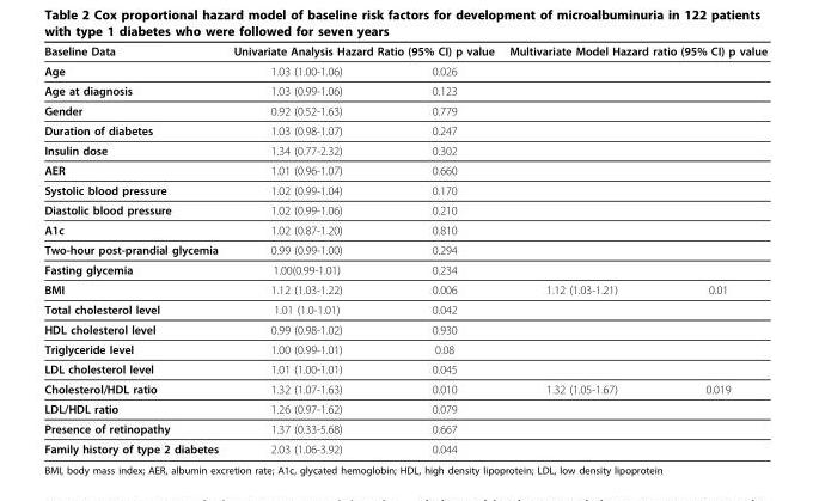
<table><thead><tr><td rowspan="2">Baseline Data Age</td><td colspan="2">Univariate Analysis Hazard Ratio (95% CI) p value</td><td colspan="2">Multivariate Model Hazard ratio (95% CI) p value</td></tr><tr><td>1.03 (1.00-1.06)</td><td>0.026</td><td></td><td></td></tr></thead><tbody><tr><td>Age at diagnosis</td><td>1.03 (0.99-1.06)</td><td>0.123</td><td></td><td></td></tr><tr><td>Gender</td><td>0.92 (0.52-1.63)</td><td>0.779</td><td></td><td></td></tr><tr><td>Duration of diabetes</td><td>1.03 (0.98-1.07)</td><td>0.247</td><td></td><td></td></tr><tr><td>Insulin dose</td><td>1.34 (0.77-2.32)</td><td>0.302</td><td></td><td></td></tr><tr><td>AER</td><td>1.01 (0.96-1.07)</td><td>0.660</td><td></td><td></td></tr><tr><td>Systolic blood pressure</td><td>1.02 (0.99-1.04)</td><td>0.170</td><td></td><td></td></tr><tr><td>Diastolic blood pressure</td><td>1.02 (0.99-1.06)</td><td>0.210</td><td></td><td></td></tr><tr><td>A1c</td><td>1.02 (0.87-1.20)</td><td>0.810</td><td></td><td></td></tr><tr><td>Two-hour post-prandial glycemia</td><td>0.99 (0.99-1.00)</td><td>0.294</td><td></td><td></td></tr><tr><td>Fasting glycemia</td><td>1.00(0.99-1.01)</td><td>0.234</td><td></td><td></td></tr><tr><td>BMI</td><td>1.12 (1.03-1.22)</td><td>0.006</td><td>1.12 (1.03-1.21)</td><td>0.01</td></tr><tr><td>Total cholesterol level</td><td>1.01 (1.0-1.01)</td><td>0.042</td><td></td><td></td></tr><tr><td>HDL cholesterol level</td><td>0.99 (0.98-1.02)</td><td>0.930</td><td></td><td></td></tr><tr><td>Triglyceride level</td><td>1.00 (0.99-1.01)</td><td>0.08</td><td></td><td></td></tr><tr><td>LDL cholesterol level</td><td>1.01 (1.00-1.01)</td><td>0.045</td><td></td><td></td></tr><tr><td>Cholesterol/HDL ratio</td><td>1.32 (1.07-1.63)</td><td>0.010</td><td>1.32 (1.05-1.67)</td><td>0.019</td></tr><tr><td>LDL/HDL ratio</td><td>1.26 (0.97-1.62)</td><td>0.079</td><td></td><td></td></tr><tr><td>Presence of retinopathy</td><td>1.37 (0.33-5.68)</td><td>0.667</td><td></td><td></td></tr><tr><td>Family history of type 2 diabetes</td><td>2.03 (1.06-3.92)</td><td>0.044</td><td></td><td></td></tr></tbody></table>